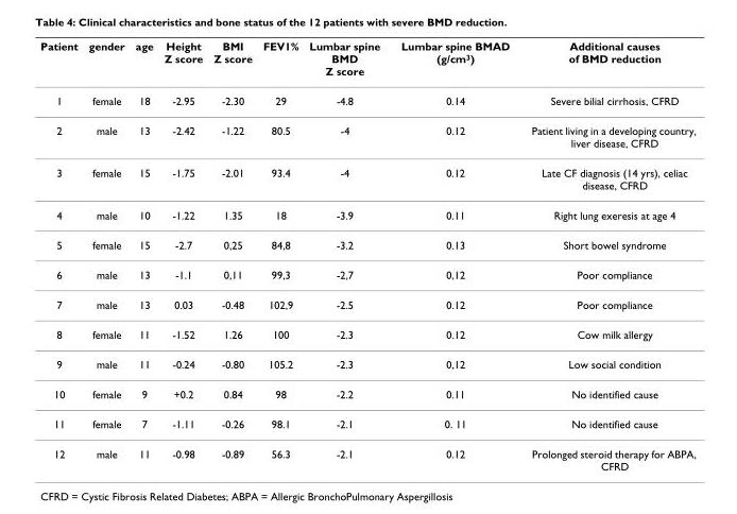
<table><thead><tr><td>Patient</td><td>gender</td><td>age</td><td>Height Z score</td><td>BMI Z score</td><td>FEV1%</td><td>Lumbar spine BMD Z score</td><td>Lumbar spine BMAD (g/cm<sup>3</sup>)</td><td>Additional causes of BMD reduction</td></tr></thead><tbody><tr><td>1</td><td>female</td><td>18</td><td>-2.95</td><td>-2.30</td><td>29</td><td>-4.8</td><td>0.14</td><td>Severe bilial cirrhosis, CFRD</td></tr><tr><td>2</td><td>male</td><td>13</td><td>-2.42</td><td>-1.22</td><td>80.5</td><td>-4</td><td>0.12</td><td>Patient living in a developing country, liver disease, CFRD</td></tr><tr><td>3</td><td>female</td><td>15</td><td>-1.75</td><td>-2.01</td><td>93.4</td><td>-4</td><td>0.12</td><td>Late CF diagnosis (14 yrs), celiac disease, CFRD</td></tr><tr><td>4</td><td>male</td><td>10</td><td>-1.22</td><td>1.35</td><td>18</td><td>-3.9</td><td>0.11</td><td>Right lung exeresis at age 4</td></tr><tr><td>5</td><td>female</td><td>15</td><td>-2.7</td><td>0,25</td><td>84,8</td><td>-3.2</td><td>0.13</td><td>Short bowel syndrome</td></tr><tr><td>6</td><td>male</td><td>13</td><td>-1.1</td><td>0,11</td><td>99,3</td><td>-2,7</td><td>0,12</td><td>Poor compliance</td></tr><tr><td>7</td><td>male</td><td>13</td><td>0.03</td><td>-0.48</td><td>102,9</td><td>-2.5</td><td>0.12</td><td>Poor compliance</td></tr><tr><td>8</td><td>female</td><td>11</td><td>-1.52</td><td>1.26</td><td>100</td><td>-2.3</td><td>0.12</td><td>Cow milk allergy</td></tr><tr><td>9</td><td>male</td><td>11</td><td>-0.24</td><td>-0.80</td><td>105.2</td><td>-2.3</td><td>0,12</td><td>Low social condition</td></tr><tr><td>10</td><td>female</td><td>9</td><td>+0.2</td><td>0.84</td><td>98</td><td>-2.2</td><td>0.11</td><td>No identified cause</td></tr><tr><td>11</td><td>female</td><td>7</td><td>-1.11</td><td>-0.26</td><td>98.1</td><td>-2.1</td><td>0. 11</td><td>No identified cause</td></tr><tr><td>12</td><td>male</td><td>11</td><td>-0.98</td><td>-0.89</td><td>56.3</td><td>-2.1</td><td>0.12</td><td>Prolonged steroid therapy for ABPA, CFRD</td></tr></tbody></table>